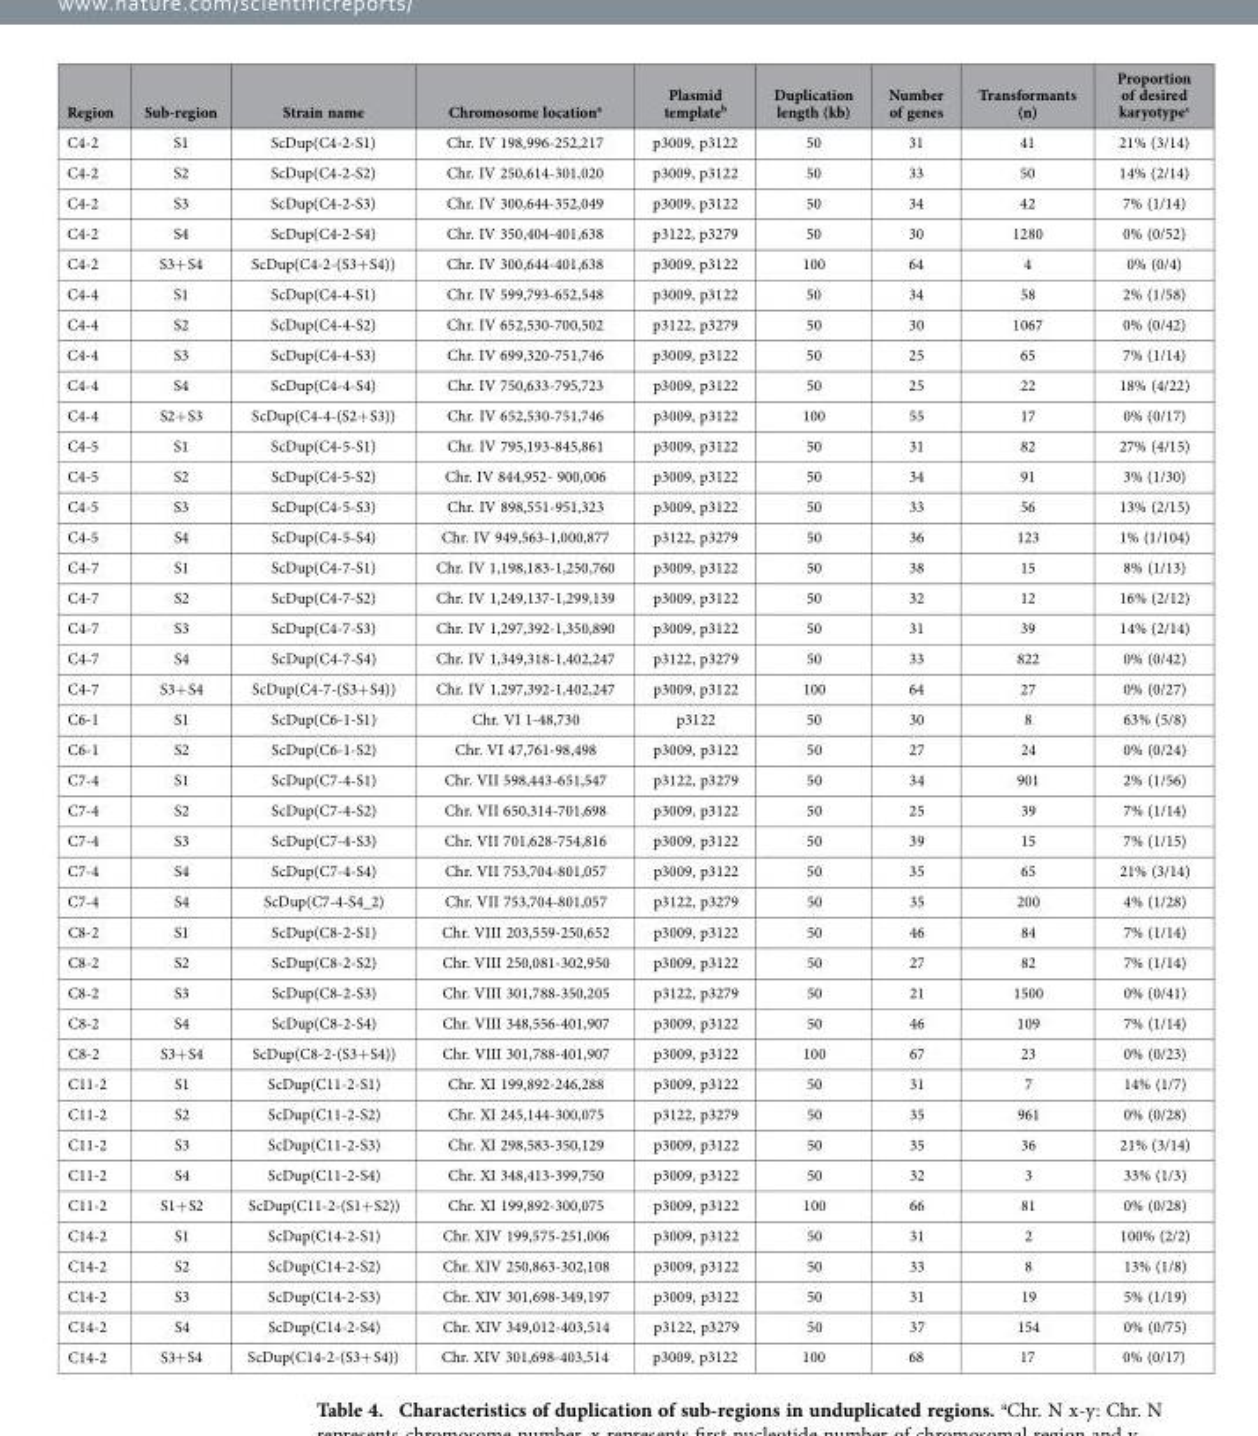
<table><thead><tr><td>Region</td><td>Sub-region</td><td>Strain name</td><td>Chromosome location<sup>a</sup></td><td>Plasmid template<sup>b</sup></td><td>Duplication length (kb)</td><td>Number of genes</td><td>Transformants (n)</td><td>Proportion of desired karyotype<sup>c</sup></td></tr></thead><tbody><tr><td>C4-2</td><td>S1</td><td>ScDup(C4-2-S1)</td><td>Chr. IV 198,996-252,217</td><td>p3009, p3122</td><td>50</td><td>31</td><td>41</td><td>21% (3/14)</td></tr><tr><td>C4-2</td><td>S2</td><td>ScDup(C4-2-S2)</td><td>Chr. IV 250,614-301,020</td><td>p3009, p3122</td><td>50</td><td>33</td><td>50</td><td>14% (2/14)</td></tr><tr><td>C4-2</td><td>S3</td><td>ScDup(C4-2-S3)</td><td>Chr. IV 300,644-352,049</td><td>p3009, p3122</td><td>50</td><td>34</td><td>42</td><td>7% (1/14)</td></tr><tr><td>C4-2</td><td>S4</td><td>ScDup(C4-2-S4)</td><td>Chr. IV 350,404-401,638</td><td>p3122, p3279</td><td>50</td><td>30</td><td>1280</td><td>0% (0/52)</td></tr><tr><td>C4-2</td><td>S3+ S4</td><td>ScDup(C4-2-(S3+ S4))</td><td>Chr. IV 300,644-401,638</td><td>p3009, p3122</td><td>100</td><td>64</td><td>4</td><td>0% (0/4)</td></tr><tr><td>C4-4</td><td>S1</td><td>ScDup(C4-4-S1)</td><td>Chr. IV 599,793-652,548</td><td>p3009, p3122</td><td>50</td><td>34</td><td>58</td><td>2% (1/58)</td></tr><tr><td>C4-4</td><td>S2</td><td>ScDup(C4-4-S2)</td><td>Chr. IV 652,530-700,502</td><td>p3122, p3279</td><td>50</td><td>30</td><td>1067</td><td>0% (0/42)</td></tr><tr><td>C4-4</td><td>S3</td><td>ScDup(C4-4-S3)</td><td>Chr. IV 699,320-751,746</td><td>p3009, p3122</td><td>50</td><td>25</td><td>65</td><td>7% (1/14)</td></tr><tr><td>C4-4</td><td>S4</td><td>ScDup(C4-4-S4)</td><td>Chr. IV 750,633-795,723</td><td>p3009, p3122</td><td>50</td><td>25</td><td>22</td><td>18% (4/22)</td></tr><tr><td>C4-4</td><td>S2+ S3</td><td>ScDup(C4-4-(S2+ S3))</td><td>Chr. IV 652,530-751,746</td><td>p3009, p3122</td><td>100</td><td>55</td><td>17</td><td>0% (0/17)</td></tr><tr><td>C4-5</td><td>S1</td><td>ScDup(C4-5-S1)</td><td>Chr. IV 795,193-845,861</td><td>p3009, p3122</td><td>50</td><td>31</td><td>82</td><td>27% (4/15)</td></tr><tr><td>C4-5</td><td>S2</td><td>ScDup(C4-5-S2)</td><td>Chr. IV 844,952- 900,006</td><td>p3009, p3122</td><td>50</td><td>34</td><td>91</td><td>3% (1/30)</td></tr><tr><td>C4-5</td><td>S3</td><td>ScDup(C4-5-S3)</td><td>Chr. IV 898,551-951,323</td><td>p3009, p3122</td><td>50</td><td>33</td><td>56</td><td>13% (2/15)</td></tr><tr><td>C4-5</td><td>S4</td><td>ScDup(C4-5-S4)</td><td>Chr. IV 949,563-1,000,877</td><td>p3122, p3279</td><td>50</td><td>36</td><td>123</td><td>1% (1/104)</td></tr><tr><td>C4-7</td><td>S1</td><td>ScDup(C4-7-S1)</td><td>Chr. IV 1,198,183-1,250,760</td><td>p3009, p3122</td><td>50</td><td>38</td><td>15</td><td>8% (1/13)</td></tr><tr><td>C4-7</td><td>S2</td><td>ScDup(C4-7-S2)</td><td>Chr. IV 1,249,137-1,299,139</td><td>p3009, p3122</td><td>50</td><td>32</td><td>12</td><td>16% (2/12)</td></tr><tr><td>C4-7</td><td>S3</td><td>ScDup(C4-7-S3)</td><td>Chr. IV 1,297,392-1,350,890</td><td>p3009, p3122</td><td>50</td><td>31</td><td>39</td><td>14% (2/14)</td></tr><tr><td>C4-7</td><td>S4</td><td>ScDup(C4-7-S4)</td><td>Chr. IV 1,349,318-1,402,247</td><td>p3122, p3279</td><td>50</td><td>33</td><td>822</td><td>0% (0/42)</td></tr><tr><td>C4-7</td><td>S3+ S4</td><td>ScDup(C4-7-(S3+ S4))</td><td>Chr. IV 1,297,392-1,402,247</td><td>p3009, p3122</td><td>100</td><td>64</td><td>27</td><td>0% (0/27)</td></tr><tr><td>C6-1</td><td>S1</td><td>ScDup(C6-1-S1)</td><td>Chr. VI 1-48,730</td><td>p3122</td><td>50</td><td>30</td><td>8</td><td>63% (5/8)</td></tr><tr><td>C6-1</td><td>S2</td><td>ScDup(C6-1-S2)</td><td>Chr. VI 47,761-98,498</td><td>p3009, p3122</td><td>50</td><td>27</td><td>24</td><td>0% (0/24)</td></tr><tr><td>C7-4</td><td>S1</td><td>ScDup(C7-4-S1)</td><td>Chr. VII 598,443-651,547</td><td>p3122, p3279</td><td>50</td><td>34</td><td>901</td><td>2% (1/56)</td></tr><tr><td>C7-4</td><td>S2</td><td>ScDup(C7-4-S2)</td><td>Chr. VII 650,314-701,698</td><td>p3009, p3122</td><td>50</td><td>25</td><td>39</td><td>7% (1/14)</td></tr><tr><td>C7-4</td><td>S3</td><td>ScDup(C7-4-S3)</td><td>Chr. VII 701,628-754,816</td><td>p3009, p3122</td><td>50</td><td>39</td><td>15</td><td>7% (1/15)</td></tr><tr><td>C7-4</td><td>S4</td><td>ScDup(C7-4-S4)</td><td>Chr. VII 753,704-801,057</td><td>p3009, p3122</td><td>50</td><td>35</td><td>65</td><td>21% (3/14)</td></tr><tr><td>C7-4</td><td>S4</td><td>ScDup(C7-4-S4_2)</td><td>Chr. VII 753,704-801,057</td><td>p3122, p3279</td><td>50</td><td>35</td><td>200</td><td>4% (1/28)</td></tr><tr><td>C8-2</td><td>S1</td><td>ScDup(C8-2-S1)</td><td>Chr. VIII 203,559-250,652</td><td>p3009, p3122</td><td>50</td><td>46</td><td>84</td><td>7% (1/14)</td></tr><tr><td>C8-2</td><td>S2</td><td>ScDup(C8-2-S2)</td><td>Chr. VIII 250,081-302,950</td><td>p3009, p3122</td><td>50</td><td>27</td><td>82</td><td>7% (1/14)</td></tr><tr><td>C8-2</td><td>S3</td><td>ScDup(C8-2-S3)</td><td>Chr. VIII 301,788-350,205</td><td>p3122, p3279</td><td>50</td><td>21</td><td>1500</td><td>0% (0/41)</td></tr><tr><td>C8-2</td><td>S4</td><td>ScDup(C8-2-S4)</td><td>Chr. VIII 348,556-401,907</td><td>p3009, p3122</td><td>50</td><td>46</td><td>109</td><td>7% (1/14)</td></tr><tr><td>C8-2</td><td>S3+ S4</td><td>ScDup(C8-2-(S3+ S4))</td><td>Chr. VIII 301,788-401,907</td><td>p3009, p3122</td><td>100</td><td>67</td><td>23</td><td>0% (0/23)</td></tr><tr><td>C11-2</td><td>S1</td><td>ScDup(C11-2-S1)</td><td>Chr. XI 199,892-246,288</td><td>p3009, p3122</td><td>50</td><td>31</td><td>7</td><td>14% (1/7)</td></tr><tr><td>C11-2</td><td>S2</td><td>ScDup(C11-2-S2)</td><td>Chr. XI 245,144-300,075</td><td>p3122, p3279</td><td>50</td><td>35</td><td>961</td><td>0% (0/28)</td></tr><tr><td>C11-2</td><td>S3</td><td>ScDup(C11-2-S3)</td><td>Chr. XI 298,583-350,129</td><td>p3009, p3122</td><td>50</td><td>35</td><td>36</td><td>21% (3/14)</td></tr><tr><td>C11-2</td><td>S4</td><td>ScDup(C11-2-S4)</td><td>Chr. XI 348,413-399,750</td><td>p3009, p3122</td><td>50</td><td>32</td><td>3</td><td>33% (1/3)</td></tr><tr><td>C11-2</td><td>S1+ S2</td><td>ScDup(C11-2-(S1+ S2))</td><td>Chr. XI 199,892-300,075</td><td>p3009, p3122</td><td>100</td><td>66</td><td>81</td><td>0% (0/28)</td></tr><tr><td>C14-2</td><td>S1</td><td>ScDup(C14-2-S1)</td><td>Chr. XIV 199,575-251,006</td><td>p3009, p3122</td><td>50</td><td>31</td><td>2</td><td>100% (2/2)</td></tr><tr><td>C14-2</td><td>S2</td><td>ScDup(C14-2-S2)</td><td>Chr. XIV 250,863-302,108</td><td>p3009, p3122</td><td>50</td><td>33</td><td>8</td><td>13% (1/8)</td></tr><tr><td>C14-2</td><td>S3</td><td>ScDup(C14-2-S3)</td><td>Chr. XIV 301,698-349,197</td><td>p3009, p3122</td><td>50</td><td>31</td><td>19</td><td>5% (1/19)</td></tr><tr><td>C14-2</td><td>S4</td><td>ScDup(C14-2-S4)</td><td>Chr. XIV 349,012-403,514</td><td>p3122, p3279</td><td>50</td><td>37</td><td>154</td><td>0% (0/75)</td></tr><tr><td>C14-2</td><td>S3+ S4</td><td>ScDup(C14-2-(S3+ S4))</td><td>Chr. XIV 301,698-403,514</td><td>p3009, p3122</td><td>100</td><td>68</td><td>17</td><td>0% (0/17)</td></tr></tbody></table>